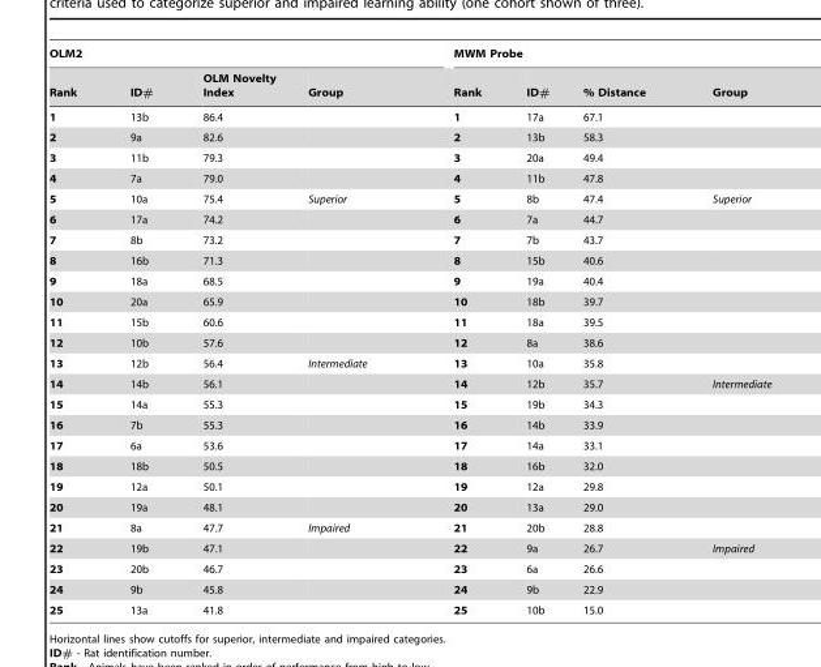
<table><thead><tr><td colspan="4">OLM2</td><td colspan="4">MWM Probe</td></tr><tr><td>Rank</td><td>ID#</td><td>OLM Novelty Index</td><td>Group</td><td>Rank</td><td>ID#</td><td>% Distance</td><td>Group</td></tr></thead><tbody><tr><td>1</td><td>13b</td><td>86.4</td><td></td><td>1</td><td>17a</td><td>67.1</td><td></td></tr><tr><td>2</td><td>9a</td><td>82.6</td><td></td><td>2</td><td>13b</td><td>58.3</td><td></td></tr><tr><td>3</td><td>11b</td><td>79.3</td><td></td><td>3</td><td>20a</td><td>49.4</td><td></td></tr><tr><td>4</td><td>7a</td><td>79.0</td><td></td><td>4</td><td>11b</td><td>47.8</td><td></td></tr><tr><td>5</td><td>10a</td><td>75.4</td><td>Superior</td><td>5</td><td>8b</td><td>47.4</td><td>Superior</td></tr><tr><td>6</td><td>17a</td><td>74.2</td><td></td><td>6</td><td>7a</td><td>44.7</td><td></td></tr><tr><td>7</td><td>8b</td><td>73.2</td><td></td><td>7</td><td>7b</td><td>43.7</td><td></td></tr><tr><td>8</td><td>16b</td><td>71.3</td><td></td><td>8</td><td>15b</td><td>40.6</td><td></td></tr><tr><td>9</td><td>18a</td><td>68.5</td><td></td><td>9</td><td>19a</td><td>40.4</td><td></td></tr><tr><td>10</td><td>20a</td><td>65.9</td><td></td><td>10</td><td>18b</td><td>39.7</td><td></td></tr><tr><td>11</td><td>15b</td><td>60.6</td><td></td><td>11</td><td>18a</td><td>39.5</td><td></td></tr><tr><td>12</td><td>10b</td><td>57.6</td><td></td><td>12</td><td>8a</td><td>38.6</td><td></td></tr><tr><td>13</td><td>12b</td><td>56.4</td><td>Intermediate</td><td>13</td><td>10a</td><td>35.8</td><td></td></tr><tr><td>14</td><td>14b</td><td>56.1</td><td></td><td>14</td><td>12b</td><td>35.7</td><td>Intermediate</td></tr><tr><td>15</td><td>14a</td><td>55.3</td><td></td><td>15</td><td>19b</td><td>34.3</td><td></td></tr><tr><td>16</td><td>7b</td><td>55.3</td><td></td><td>16</td><td>14b</td><td>33.9</td><td></td></tr><tr><td>17</td><td>6a</td><td>53.6</td><td></td><td>17</td><td>14a</td><td>33.1</td><td></td></tr><tr><td>18</td><td>18b</td><td>50.5</td><td></td><td>18</td><td>16b</td><td>32.0</td><td></td></tr><tr><td>19</td><td>12a</td><td>50.1</td><td></td><td>19</td><td>12a</td><td>29.8</td><td></td></tr><tr><td>20</td><td>19a</td><td>48.1</td><td></td><td>20</td><td>13a</td><td>29.0</td><td></td></tr><tr><td>21</td><td>8a</td><td>47.7</td><td>Impaired</td><td>21</td><td>20b</td><td>28.8</td><td></td></tr><tr><td>22</td><td>19b</td><td>47.1</td><td></td><td>22</td><td>9a</td><td>26.7</td><td>Impaired</td></tr><tr><td>23</td><td>20b</td><td>46.7</td><td></td><td>23</td><td>6a</td><td>26.6</td><td></td></tr><tr><td>24</td><td>9b</td><td>45.8</td><td></td><td>24</td><td>9b</td><td>22.9</td><td></td></tr><tr><td>25</td><td>13a</td><td>41.8</td><td></td><td>25</td><td>10b</td><td>15.0</td><td></td></tr></tbody></table>